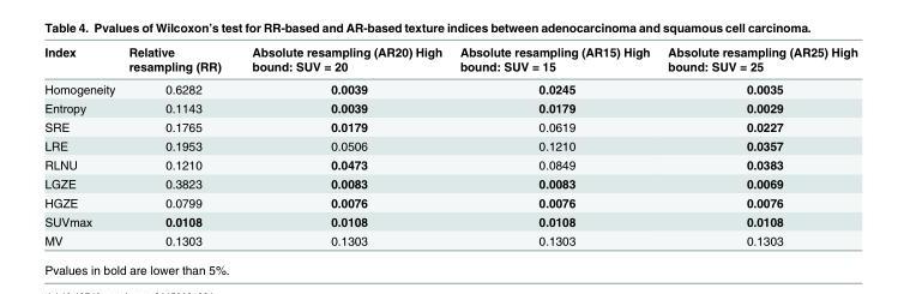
<table><thead><tr><td>Index</td><td>Relative resampling (RR)</td><td>Absolute resampling (AR20) High bound: SUV = 20</td><td>Absolute resampling (AR15) High bound: SUV = 15</td><td>Absolute resampling (AR25) High bound: SUV = 25</td></tr></thead><tbody><tr><td>Homogeneity</td><td>0.6282</td><td>0.0039</td><td>0.0245</td><td>0.0035</td></tr><tr><td>Entropy</td><td>0.1143</td><td>0.0039</td><td>0.0179</td><td>0.0029</td></tr><tr><td>SRE</td><td>0.1765</td><td>0.0179</td><td>0.0619</td><td>0.0227</td></tr><tr><td>LRE</td><td>0.1953</td><td>0.0506</td><td>0.1210</td><td>0.0357</td></tr><tr><td>RLNU</td><td>0.1210</td><td>0.0473</td><td>0.0849</td><td>0.0383</td></tr><tr><td>LGZE</td><td>0.3823</td><td>0.0083</td><td>0.0083</td><td>0.0069</td></tr><tr><td>HGZE</td><td>0.0799</td><td>0.0076</td><td>0.0076</td><td>0.0076</td></tr><tr><td>SUVmax</td><td>0.0108</td><td>0.0108</td><td>0.0108</td><td>0.0108</td></tr><tr><td>MV</td><td>0.1303</td><td>0.1303</td><td>0.1303</td><td>0.1303</td></tr></tbody></table>